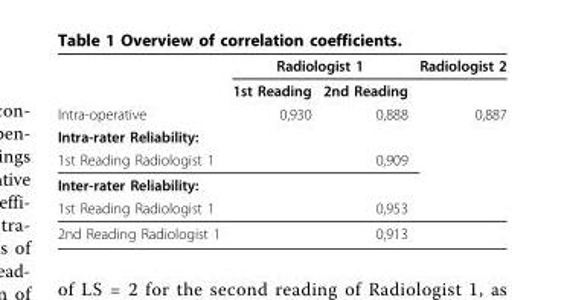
<table><thead><tr><td rowspan="7">Intra-operative Intra-rater Reliability: 1st Reading Radiologist 1 Inter-rater Reliability: 1st Reading Radiologist 1</td><td colspan="2">Radiologist 1</td><td rowspan="7">Radiologist 2 0,887</td></tr><tr><td rowspan="6">1st Reading 0,930</td><td rowspan="6">2nd Reading 0,888 0,909 0,953</td></tr><tr></tr><tr></tr><tr></tr><tr></tr><tr></tr></thead><tbody><tr><td>2nd Reading Radiologist 1</td><td></td><td>0,913</td><td></td></tr></tbody></table>